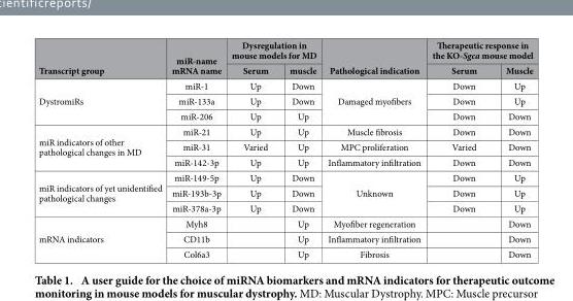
<table><thead><tr><td rowspan="2">Transcript group</td><td rowspan="2">miR-name mRNA name</td><td colspan="2">Dysregulation in mouse models for MD</td><td rowspan="2">Pathological indication</td><td colspan="2">Therapeutic response in the KO-Sgca mouse model</td></tr><tr><td>Serum</td><td>muscle</td><td>Serum</td><td>Muscle</td></tr></thead><tbody><tr><td rowspan="3">DystromiRs</td><td>miR-1</td><td>Up</td><td>Down</td><td rowspan="3">Damaged myofibers</td><td>Down</td><td>Up</td></tr><tr><td>miR-133a</td><td>Up</td><td>Down</td><td>Down</td><td>Up</td></tr><tr><td>miR-206</td><td>Up</td><td>Up</td><td>Down</td><td>Down</td></tr><tr><td rowspan="3">miR indicators of other pathological changes in MD</td><td>miR-21</td><td>Up</td><td>Up</td><td>Muscle fibrosis</td><td>Down</td><td>Down</td></tr><tr><td>miR-31</td><td>Varied</td><td>Up</td><td>MPC proliferation</td><td>Varied</td><td>Down</td></tr><tr><td>miR-142-3p</td><td>Up</td><td>Up</td><td>Inflammatory infiltration</td><td>Down</td><td>Down</td></tr><tr><td rowspan="3">miR indicators of yet unidentified pathological changes</td><td>miR-149-5p</td><td>Up</td><td>Down</td><td rowspan="3">Unknown</td><td>Down</td><td>Up</td></tr><tr><td>miR-193b-3p</td><td>Up</td><td>Down</td><td>Down</td><td>Up</td></tr><tr><td>miR-378a-3p</td><td>Up</td><td>Down</td><td>Down</td><td>Up</td></tr><tr><td rowspan="3">mRNA indicators</td><td>Myh8</td><td></td><td>Up</td><td>Myofiber regeneration</td><td></td><td>Down</td></tr><tr><td>CD11b</td><td></td><td>Up</td><td>Inflammatory infiltration</td><td></td><td>Down</td></tr><tr><td>Col6a3</td><td></td><td>Up</td><td>Fibrosis</td><td></td><td>Down</td></tr></tbody></table>